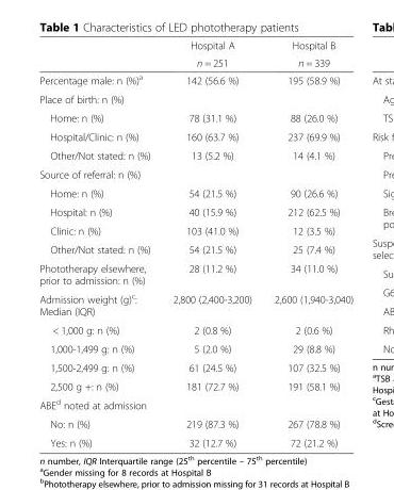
<table><thead><tr><td rowspan="2"></td><td rowspan="2">Hospital A n = 251</td><td rowspan="2">Hospital B n = 339</td></tr><tr></tr></thead><tbody><tr><td>Percentage male: n (%)<sup>a</sup></td><td>142 (56.6 %)</td><td>195 (58.9 %)</td></tr><tr><td colspan="3">Place of birth: n (%)</td></tr><tr><td>Home: n (%)</td><td>78 (31.1 %)</td><td>88 (26.0 %)</td></tr><tr><td>Hospital/Clinic: n (%)</td><td>160 (63.7 %)</td><td>237 (69.9 %)</td></tr><tr><td>Other/Not stated: n (%)</td><td>13 (5.2 %)</td><td>14 (4.1 %)</td></tr><tr><td colspan="3">Source of referral: n (%)</td></tr><tr><td>Home: n (%)</td><td>54 (21.5 %)</td><td>90 (26.6 %)</td></tr><tr><td>Hospital: n (%)</td><td>40 (15.9 %)</td><td>212 (62.5 %)</td></tr><tr><td>Clinic: n (%)</td><td>103 (41.0 %)</td><td>12 (3.5 %)</td></tr><tr><td>Other/Not stated: n (%)</td><td>54 (21.5 %)</td><td>25 (7.4 %)</td></tr><tr><td>Phototherapy elsewhere, prior to admission: n (%)</td><td>28 (11.2 %)</td><td>34 (11.0 %)</td></tr><tr><td>Admission weight (g)<sup>c</sup>: Median (IQR)</td><td>2,800 (2,400-3,200)</td><td>2,600 (1,940-3,040)</td></tr><tr><td>&lt; 1,000 g: n (%)</td><td>2 (0.8 %)</td><td>2 (0.6 %)</td></tr><tr><td>1,000-1,499 g: n (%)</td><td>5 (2.0 %)</td><td>29 (8.8 %)</td></tr><tr><td>1,500-2,499 g: n (%)</td><td>61 (24.5 %)</td><td>107 (32.5 %)</td></tr><tr><td>2,500 g +: n (%)</td><td>181 (72.7 %)</td><td>191 (58.1 %)</td></tr><tr><td colspan="3">ABE<sup>d</sup> noted at admission</td></tr><tr><td>No: n (%)</td><td>219 (87.3 %)</td><td>267 (78.8 %)</td></tr><tr><td>Yes: n (%)</td><td>32 (12.7 %)</td><td>72 (21.2 %)</td></tr></tbody></table>